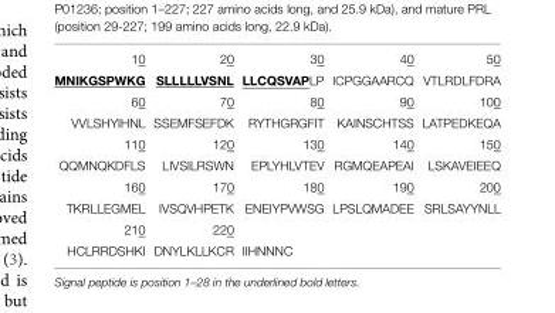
<table><tbody><tr><td>10</td><td>20</td><td>30</td><td>40</td><td>50</td></tr><tr><td>MNIKGSPWKG</td><td>SLLLLLVSNL</td><td>LLCQSVAPLP</td><td>ICPGGAARCQ</td><td>VTLRDLFDRA</td></tr><tr><td>60</td><td>70</td><td>80</td><td>90</td><td>100</td></tr><tr><td>VVLSHYIHNL</td><td>SSEMFSEFDK</td><td>RYTHGRGFIT</td><td>KAINSCHTSS</td><td>LATPEDKEQA</td></tr><tr><td>110</td><td>120</td><td>130</td><td>140</td><td>150</td></tr><tr><td>QQMNQKDFLS</td><td>LIVSILRSWN</td><td>EPLYHLVTEV</td><td>RGMQEAPEAI</td><td>LSKAVEIEEQ</td></tr><tr><td>160</td><td>170</td><td>180</td><td>190</td><td>200</td></tr><tr><td>TKRLLEGMEL</td><td>IVSQVHPETK</td><td>ENEIYPVWSG</td><td>LPSLQMADEE</td><td>SRLSAYYNLL</td></tr><tr><td>210</td><td>220</td><td></td><td></td><td></td></tr><tr><td>HCLRRDSHKI</td><td>DNYLKLLKCR</td><td>IIHNNNC</td><td></td><td></td></tr></tbody></table>